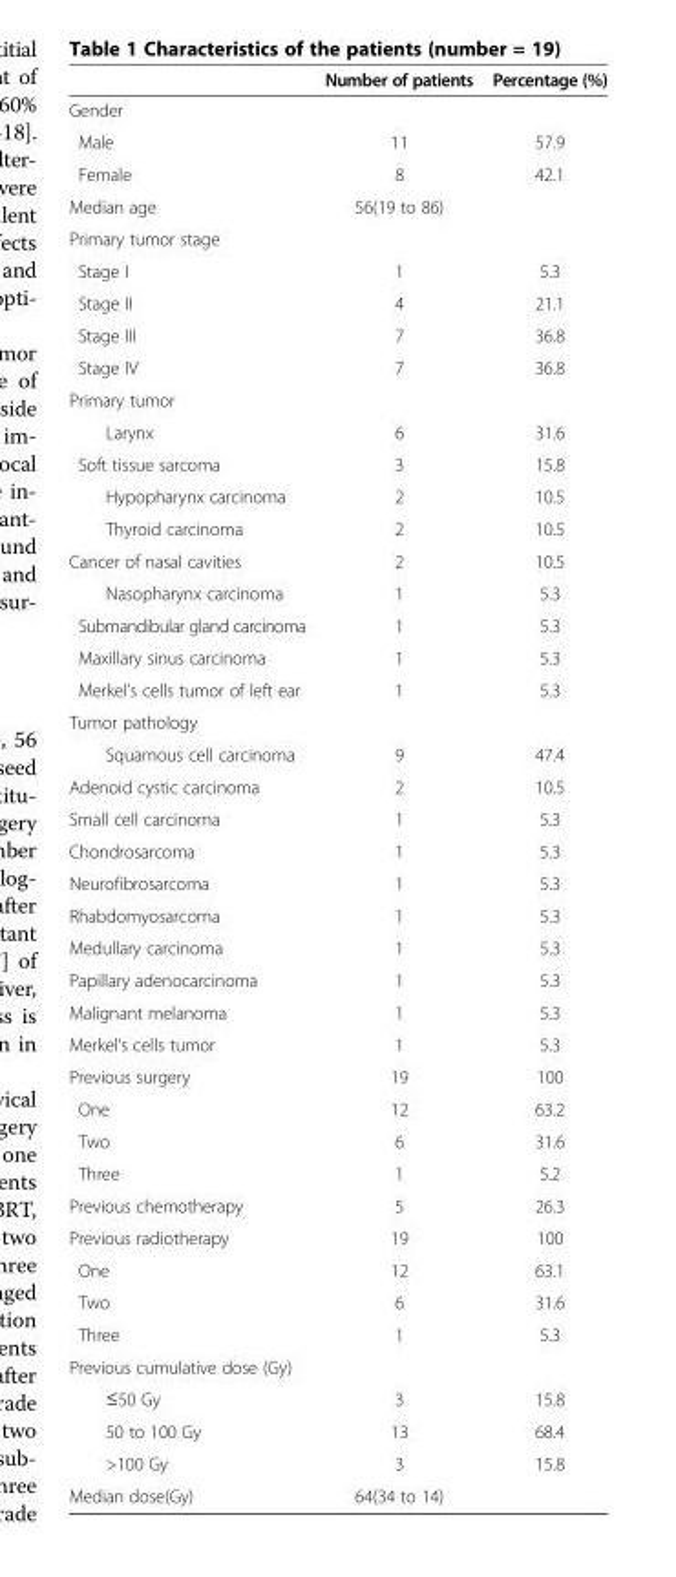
<table><thead><tr><td></td><td>Number of patients</td><td>Percentage (%)</td></tr></thead><tbody><tr><td colspan="3">Gender</td></tr><tr><td>Male</td><td>11</td><td>57.9</td></tr><tr><td>Female</td><td>8</td><td>42.1</td></tr><tr><td>Median age</td><td>56(19 to 86)</td><td></td></tr><tr><td colspan="3">Primary tumor stage</td></tr><tr><td>Stage I</td><td>1</td><td>5.3</td></tr><tr><td>Stage II</td><td>4</td><td>21.1</td></tr><tr><td>Stage III</td><td>7</td><td>36.8</td></tr><tr><td>Stage IV</td><td>7</td><td>36.8</td></tr><tr><td colspan="3">Primary tumor</td></tr><tr><td>Larynx</td><td>6</td><td>31.6</td></tr><tr><td>Soft tissue sarcoma</td><td>3</td><td>15.8</td></tr><tr><td>Hypopharynx carcinoma</td><td>2</td><td>10.5</td></tr><tr><td>Thyroid carcinoma</td><td>2</td><td>10.5</td></tr><tr><td>Cancer of nasal cavities</td><td>2</td><td>10.5</td></tr><tr><td>Nasopharynx carcinoma</td><td>1</td><td>5.3</td></tr><tr><td>Submandibular gland carcinoma</td><td>1</td><td>5.3</td></tr><tr><td>Maxillary sinus carcinoma</td><td>1</td><td>5.3</td></tr><tr><td>Merkel’s cells tumor of left ear</td><td>1</td><td>5.3</td></tr><tr><td colspan="3">Tumor pathology</td></tr><tr><td>Squamous cell carcinoma</td><td>9</td><td>47.4</td></tr><tr><td>Adenoid cystic carcinoma</td><td>2</td><td>10.5</td></tr><tr><td>Small cell carcinoma</td><td>1</td><td>5.3</td></tr><tr><td>Chondrosarcoma</td><td>1</td><td>5.3</td></tr><tr><td>Neurofibrosarcoma</td><td>1</td><td>5.3</td></tr><tr><td>Rhabdomyosarcoma</td><td>1</td><td>5.3</td></tr><tr><td>Medullary carcinoma</td><td>1</td><td>5.3</td></tr><tr><td>Papillary adenocarcinoma</td><td>1</td><td>5.3</td></tr><tr><td>Malignant melanoma</td><td>1</td><td>5.3</td></tr><tr><td>Merkel’s cells tumor</td><td>1</td><td>5.3</td></tr><tr><td>Previous surgery</td><td>19</td><td>100</td></tr><tr><td>One</td><td>12</td><td>63.2</td></tr><tr><td>Two</td><td>6</td><td>31.6</td></tr><tr><td>Three</td><td>1</td><td>5.2</td></tr><tr><td>Previous chemotherapy</td><td>5</td><td>26.3</td></tr><tr><td>Previous radiotherapy</td><td>19</td><td>100</td></tr><tr><td>One</td><td>12</td><td>63.1</td></tr><tr><td>Two</td><td>6</td><td>31.6</td></tr><tr><td>Three</td><td>1</td><td>5.3</td></tr><tr><td colspan="3">Previous cumulative dose (Gy)</td></tr><tr><td>≤50 Gy</td><td>3</td><td>15.8</td></tr><tr><td>50 to 100 Gy</td><td>13</td><td>68.4</td></tr><tr><td>&gt;100 Gy</td><td>3</td><td>15.8</td></tr><tr><td>Median dose(Gy)</td><td>64(34 to 14)</td><td></td></tr></tbody></table>